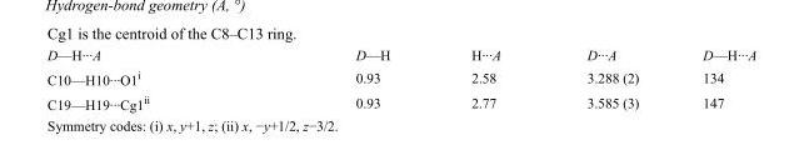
<table><tbody><tr><td>D—H···A</td><td>D—H</td><td>H···A</td><td>D···A</td><td>D—H···A</td></tr><tr><td>C10—H10···O1<sup>i</sup></td><td>0.93</td><td>2.58</td><td>3.288 (2)</td><td>134</td></tr><tr><td>C19—H19···Cg1<sup>ii</sup></td><td>0.93</td><td>2.77</td><td>3.585 (3)</td><td>147</td></tr></tbody></table>